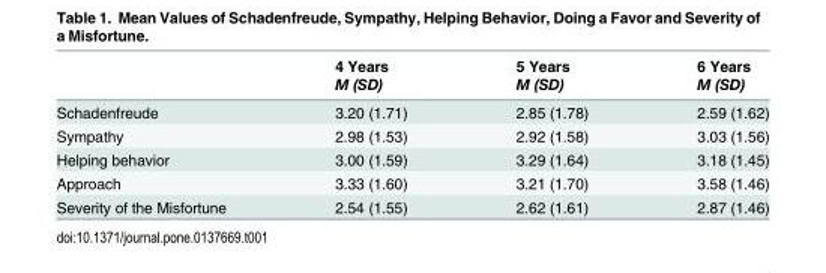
<table><thead><tr><td rowspan="2"></td><td rowspan="2">4 Years M (SD)</td><td rowspan="2">5 Years M (SD)</td><td rowspan="2">6 Years M (SD)</td></tr><tr></tr></thead><tbody><tr><td>Schadenfreude</td><td>3.20 (1.71)</td><td>2.85 (1.78)</td><td>2.59 (1.62)</td></tr><tr><td>Sympathy</td><td>2.98 (1.53)</td><td>2.92 (1.58)</td><td>3.03 (1.56)</td></tr><tr><td>Helping behavior</td><td>3.00 (1.59)</td><td>3.29 (1.64)</td><td>3.18 (1.45)</td></tr><tr><td>Approach</td><td>3.33 (1.60)</td><td>3.21 (1.70)</td><td>3.58 (1.46)</td></tr><tr><td>Severity of the Misfortune</td><td>2.54 (1.55)</td><td>2.62 (1.61)</td><td>2.87 (1.46)</td></tr></tbody></table>